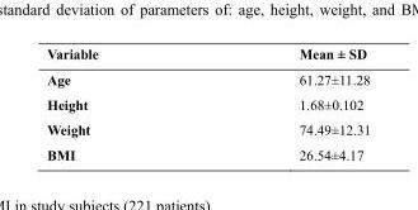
<table><thead><tr><td>Variable</td><td>Mean ± SD</td></tr></thead><tbody><tr><td>Age</td><td>61.27±11.28</td></tr><tr><td>Height</td><td>1.68±0.102</td></tr><tr><td>Weight</td><td>74.49±12.31</td></tr><tr><td>BMI</td><td>26.54±4.17</td></tr></tbody></table>